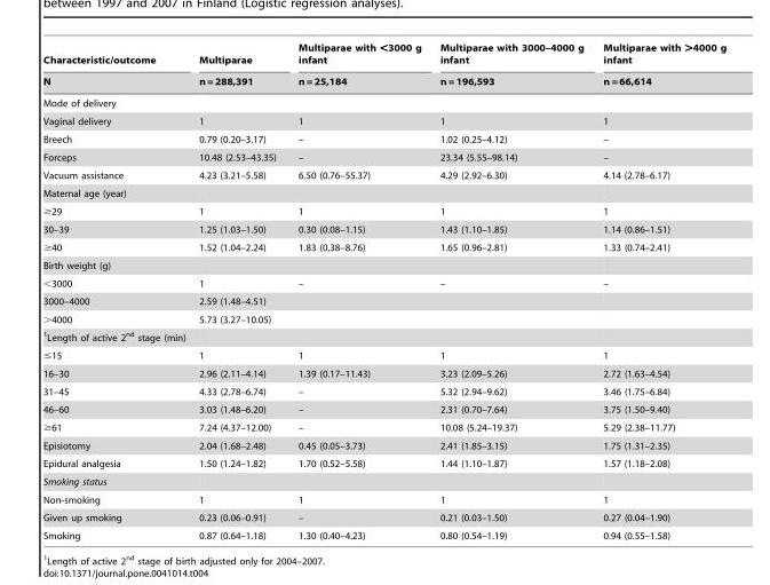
<table><thead><tr><td rowspan="2">Characteristic/outcome N</td><td rowspan="2">Multiparae n = 288,391</td><td rowspan="2">Multiparae with &lt;3000 g infant n = 25,184</td><td rowspan="2">Multiparae with 3000–4000 g infant n = 196,593</td><td rowspan="2">Multiparae with &gt;4000 g infant n = 66,614</td></tr><tr></tr></thead><tbody><tr><td colspan="5">Mode of delivery</td></tr><tr><td>Vaginal delivery</td><td>1</td><td>1</td><td>1</td><td>1</td></tr><tr><td>Breech</td><td>0.79 (0.20–3.17)</td><td>–</td><td>1.02 (0.25–4.12)</td><td>–</td></tr><tr><td>Forceps</td><td>10.48 (2.53–43.35)</td><td>–</td><td>23.34 (5.55–98.14)</td><td>–</td></tr><tr><td>Vacuum assistance</td><td>4.23 (3.21–5.58)</td><td>6.50 (0.76–55.37)</td><td>4.29 (2.92–6.30)</td><td>4.14 (2.78–6.17)</td></tr><tr><td colspan="5">Maternal age (year)</td></tr><tr><td>≥29</td><td>1</td><td>1</td><td>1</td><td>1</td></tr><tr><td>30–39</td><td>1.25 (1.03–1.50)</td><td>0.30 (0.08–1.15)</td><td>1.43 (1.10–1.85)</td><td>1.14 (0.86–1.51)</td></tr><tr><td>≥40</td><td>1.52 (1.04–2.24)</td><td>1.83 (0.38–8.76)</td><td>1.65 (0.96–2.81)</td><td>1.33 (0.74–2.41)</td></tr><tr><td colspan="5">Birth weight (g)</td></tr><tr><td>&lt;3000</td><td>1</td><td>–</td><td>–</td><td>–</td></tr><tr><td>3000–4000</td><td>2.59 (1.48–4.51)</td><td></td><td></td><td></td></tr><tr><td>&gt;4000</td><td>5.73 (3.27–10.05)</td><td></td><td></td><td></td></tr><tr><td colspan="5">1Length of active 2<sup>nd</sup> stage (min)</td></tr><tr><td>≤15</td><td>1</td><td>1</td><td>1</td><td>1</td></tr><tr><td>16–30</td><td>2.96 (2.11–4.14)</td><td>1.39 (0.17–11.43)</td><td>3.23 (2.09–5.26)</td><td>2.72 (1.63–4.54)</td></tr><tr><td>31–45</td><td>4.33 (2.78–6.74)</td><td>–</td><td>5.32 (2.94–9.62)</td><td>3.46 (1.75–6.84)</td></tr><tr><td>46–60</td><td>3.03 (1.48–6.20)</td><td>–</td><td>2.31 (0.70–7.64)</td><td>3.75 (1.50–9.40)</td></tr><tr><td>≥61</td><td>7.24 (4.37–12.00)</td><td>–</td><td>10.08 (5.24–19.37)</td><td>5.29 (2.38–11.77)</td></tr><tr><td>Episiotomy</td><td>2.04 (1.68–2.48)</td><td>0.45 (0.05–3.73)</td><td>2.41 (1.85–3.15)</td><td>1.75 (1.31–2.35)</td></tr><tr><td>Epidural analgesia</td><td>1.50 (1.24–1.82)</td><td>1.70 (0.52–5.58)</td><td>1.44 (1.10–1.87)</td><td>1.57 (1.18–2.08)</td></tr><tr><td colspan="5">Smoking status</td></tr><tr><td>Non-smoking</td><td>1</td><td>1</td><td>1</td><td>1</td></tr><tr><td>Given up smoking</td><td>0.23 (0.06–0.91)</td><td>–</td><td>0.21 (0.03–1.50)</td><td>0.27 (0.04–1.90)</td></tr><tr><td>Smoking</td><td>0.87 (0.64–1.18)</td><td>1.30 (0.40–4.23)</td><td>0.80 (0.54–1.19)</td><td>0.94 (0.55–1.58)</td></tr></tbody></table>